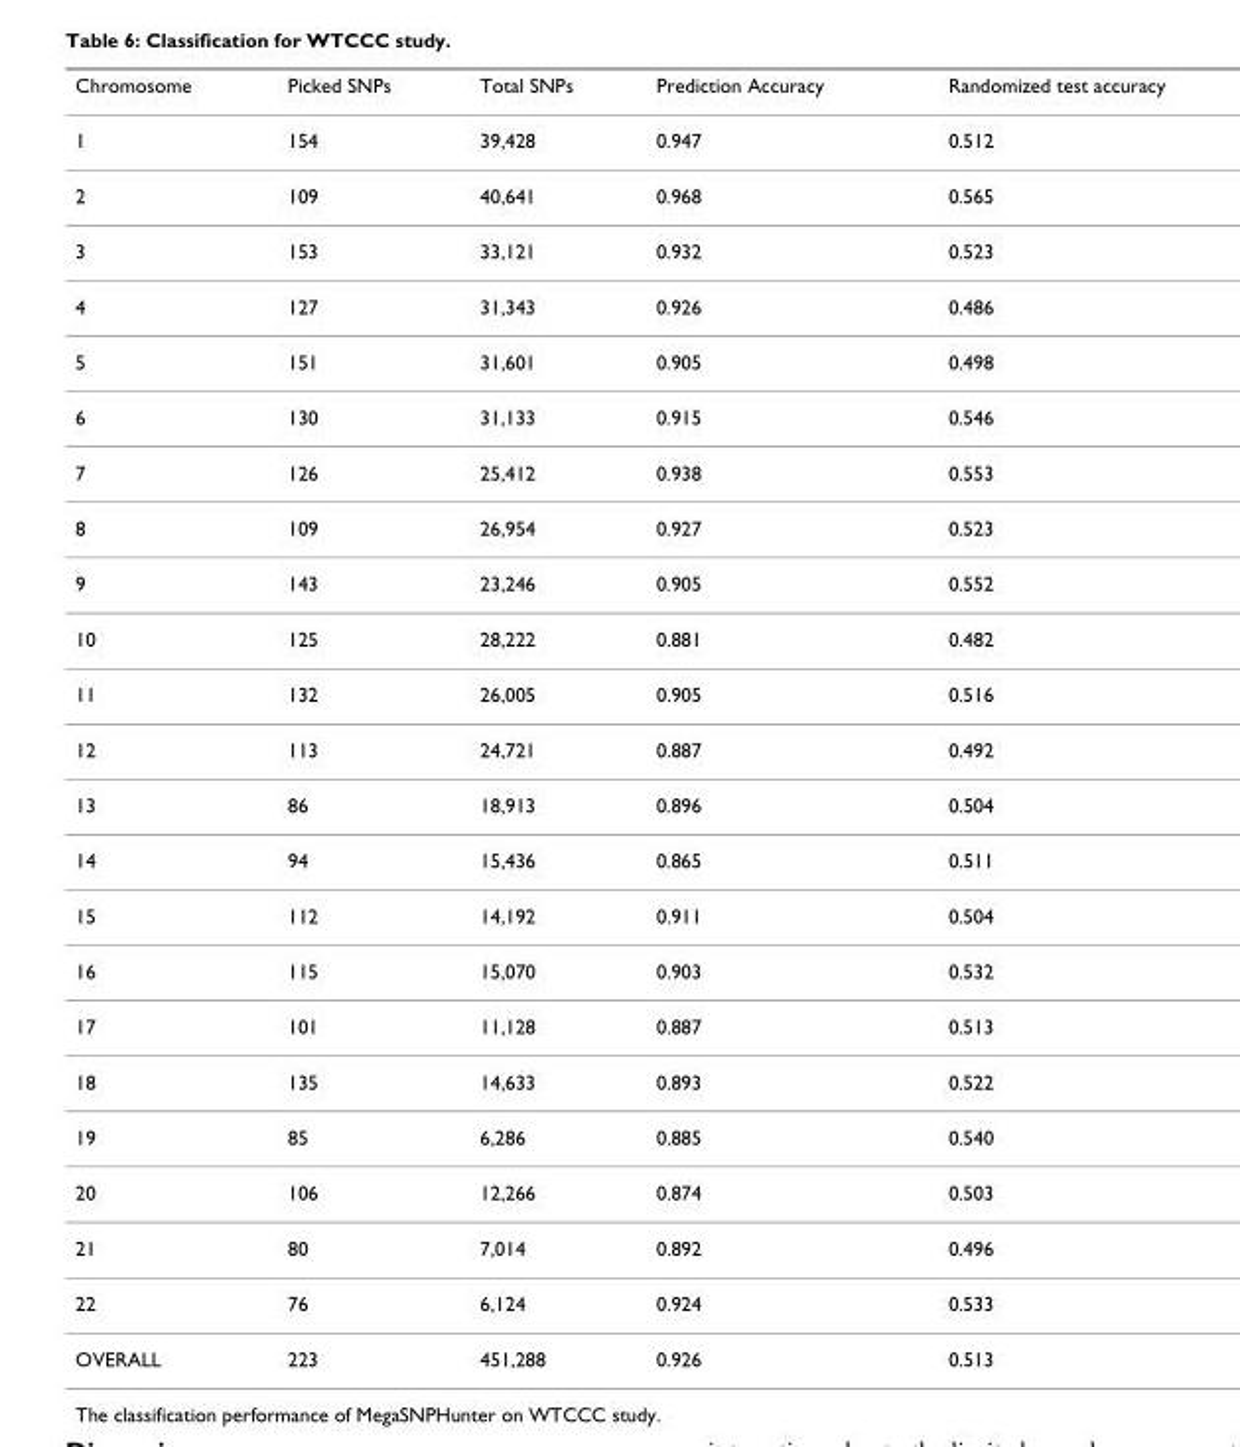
<table><thead><tr><td>Chromosome</td><td>Picked SNPs</td><td>Total SNPs</td><td>Prediction Accuracy</td><td>Randomized test accuracy</td></tr></thead><tbody><tr><td>1</td><td>154</td><td>39,428</td><td>0.947</td><td>0.512</td></tr><tr><td>2</td><td>109</td><td>40,641</td><td>0.968</td><td>0.565</td></tr><tr><td>3</td><td>153</td><td>33,121</td><td>0.932</td><td>0.523</td></tr><tr><td>4</td><td>127</td><td>31,343</td><td>0.926</td><td>0.486</td></tr><tr><td>5</td><td>151</td><td>31,601</td><td>0.905</td><td>0.498</td></tr><tr><td>6</td><td>130</td><td>31,133</td><td>0.915</td><td>0.546</td></tr><tr><td>7</td><td>126</td><td>25,412</td><td>0.938</td><td>0.553</td></tr><tr><td>8</td><td>109</td><td>26,954</td><td>0.927</td><td>0.523</td></tr><tr><td>9</td><td>143</td><td>23,246</td><td>0.905</td><td>0.552</td></tr><tr><td>10</td><td>125</td><td>28,222</td><td>0.881</td><td>0.482</td></tr><tr><td>11</td><td>132</td><td>26,005</td><td>0.905</td><td>0.516</td></tr><tr><td>12</td><td>113</td><td>24,721</td><td>0.887</td><td>0.492</td></tr><tr><td>13</td><td>86</td><td>18,913</td><td>0.896</td><td>0.504</td></tr><tr><td>14</td><td>94</td><td>15,436</td><td>0.865</td><td>0.511</td></tr><tr><td>15</td><td>112</td><td>14,192</td><td>0.911</td><td>0.504</td></tr><tr><td>16</td><td>115</td><td>15,070</td><td>0.903</td><td>0.532</td></tr><tr><td>17</td><td>101</td><td>11,128</td><td>0.887</td><td>0.513</td></tr><tr><td>18</td><td>135</td><td>14,633</td><td>0.893</td><td>0.522</td></tr><tr><td>19</td><td>85</td><td>6,286</td><td>0.885</td><td>0.540</td></tr><tr><td>20</td><td>106</td><td>12,266</td><td>0.874</td><td>0.503</td></tr><tr><td>21</td><td>80</td><td>7,014</td><td>0.892</td><td>0.496</td></tr><tr><td>22</td><td>76</td><td>6,124</td><td>0.924</td><td>0.533</td></tr><tr><td>OVERALL</td><td>223</td><td>451,288</td><td>0.926</td><td>0.513</td></tr></tbody></table>